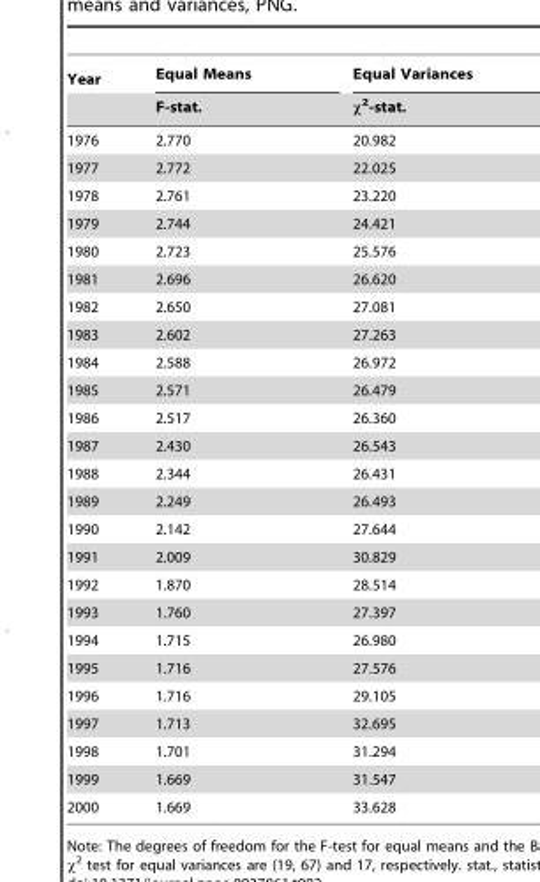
<table><thead><tr><td rowspan="2">Year</td><td rowspan="2">Equal Means F-stat.</td><td rowspan="2">Equal Variances χ<sup>2</sup>-stat.</td></tr><tr></tr></thead><tbody><tr><td>1976</td><td>2.770</td><td>20.982</td></tr><tr><td>1977</td><td>2.772</td><td>22.025</td></tr><tr><td>1978</td><td>2.761</td><td>23.220</td></tr><tr><td>1979</td><td>2.744</td><td>24.421</td></tr><tr><td>1980</td><td>2.723</td><td>25.576</td></tr><tr><td>1981</td><td>2.696</td><td>26.620</td></tr><tr><td>1982</td><td>2.650</td><td>27.081</td></tr><tr><td>1983</td><td>2.602</td><td>27.263</td></tr><tr><td>1984</td><td>2.588</td><td>26.972</td></tr><tr><td>1985</td><td>2.571</td><td>26.479</td></tr><tr><td>1986</td><td>2.517</td><td>26.360</td></tr><tr><td>1987</td><td>2.430</td><td>26.543</td></tr><tr><td>1988</td><td>2.344</td><td>26.431</td></tr><tr><td>1989</td><td>2.249</td><td>26.493</td></tr><tr><td>1990</td><td>2.142</td><td>27.644</td></tr><tr><td>1991</td><td>2.009</td><td>30.829</td></tr><tr><td>1992</td><td>1.870</td><td>28.514</td></tr><tr><td>1993</td><td>1.760</td><td>27.397</td></tr><tr><td>1994</td><td>1.715</td><td>26.980</td></tr><tr><td>1995</td><td>1.716</td><td>27.576</td></tr><tr><td>1996</td><td>1.716</td><td>29.105</td></tr><tr><td>1997</td><td>1.713</td><td>32.695</td></tr><tr><td>1998</td><td>1.701</td><td>31.294</td></tr><tr><td>1999</td><td>1.669</td><td>31.547</td></tr><tr><td>2000</td><td>1.669</td><td>33.628</td></tr></tbody></table>